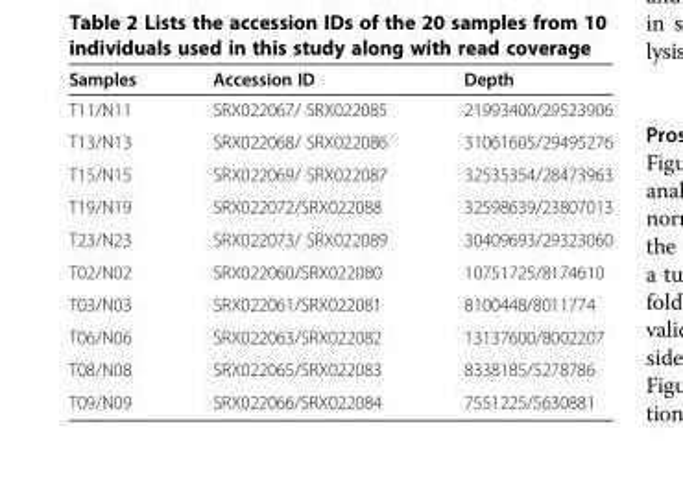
<table><thead><tr><td>Samples</td><td>Accession ID</td><td>Depth</td></tr></thead><tbody><tr><td>T11/N11</td><td>SRX022067/ SRX022085</td><td>21993400/29523906</td></tr><tr><td>T13/N13</td><td>SRX022068/ SRX022086</td><td>31061605/29495276</td></tr><tr><td>T15/N15</td><td>SRX022069/ SRX022087</td><td>32535354/28473963</td></tr><tr><td>T19/N19</td><td>SRX022072/SRX022088</td><td>32598639/23807013</td></tr><tr><td>T23/N23</td><td>SRX022073/ SRX022089</td><td>30409693/29323060</td></tr><tr><td>T02/N02</td><td>SRX022060/SRX022080</td><td>10751725/8174610</td></tr><tr><td>T03/N03</td><td>SRX022061/SRX022081</td><td>8100448/8011774</td></tr><tr><td>T06/N06</td><td>SRX022063/SRX022082</td><td>13137600/8002207</td></tr><tr><td>T08/N08</td><td>SRX022065/SRX022083</td><td>8338185/5278786</td></tr><tr><td>T09/N09</td><td>SRX022066/SRX022084</td><td>7551225/5630881</td></tr></tbody></table>